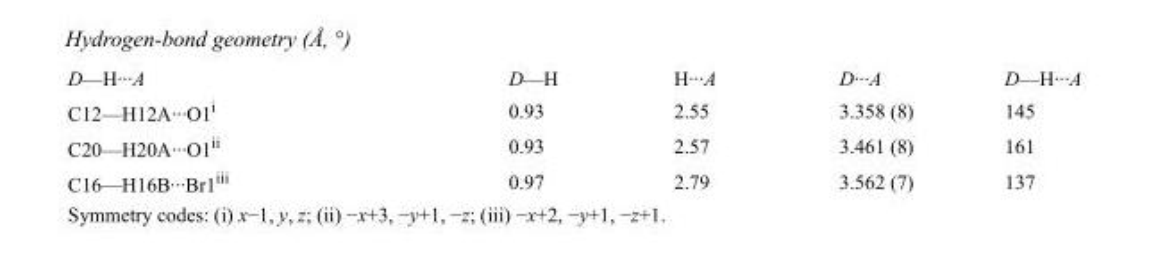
<table><tbody><tr><td>D—H···A</td><td>D—H</td><td>H···A</td><td>D···A</td><td>D—H···A</td></tr><tr><td>C12—H12A···O1<sup>i</sup></td><td>0.93</td><td>2.55</td><td>3.358 (8)</td><td>145</td></tr><tr><td>C20—H20A···O1<sup>ii</sup></td><td>0.93</td><td>2.57</td><td>3.461 (8)</td><td>161</td></tr><tr><td>C16—H16B···Br1<sup>iii</sup></td><td>0.97</td><td>2.79</td><td>3.562 (7)</td><td>137</td></tr></tbody></table>